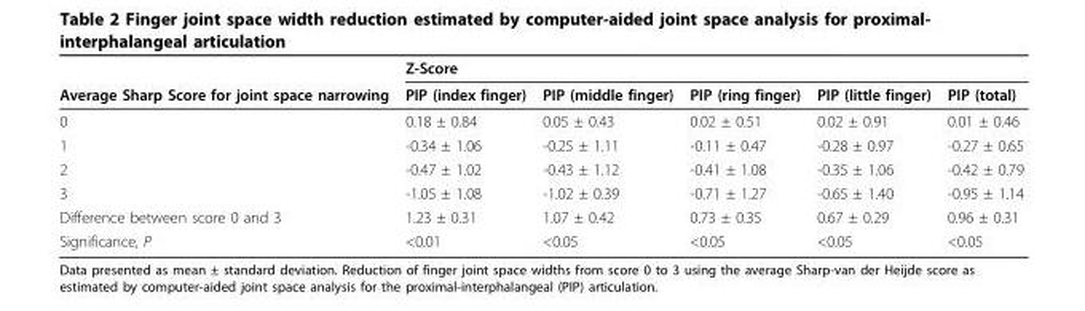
<table><thead><tr><td rowspan="2">Average Sharp Score for joint space narrowing</td><td colspan="5">Z-Score</td></tr><tr><td>PIP (index finger)</td><td>PIP (middle finger)</td><td>PIP (ring finger)</td><td>PIP (little finger)</td><td>PIP (total)</td></tr></thead><tbody><tr><td>0</td><td>0.18 ± 0.84</td><td>0.05 ± 0.43</td><td>0.02 ± 0.51</td><td>0.02 ± 0.91</td><td>0.01 ± 0.46</td></tr><tr><td>1</td><td>-0.34 ± 1.06</td><td>-0.25 ± 1.11</td><td>-0.11 ± 0.47</td><td>-0.28 ± 0.97</td><td>-0.27 ± 0.65</td></tr><tr><td>2</td><td>-0.47 ± 1.02</td><td>-0.43 ± 1.12</td><td>-0.41 ± 1.08</td><td>-0.35 ± 1.06</td><td>-0.42 ± 0.79</td></tr><tr><td>3</td><td>-1.05 ± 1.08</td><td>-1.02 ± 0.39</td><td>-0.71 ± 1.27</td><td>-0.65 ± 1.40</td><td>-0.95 ± 1.14</td></tr><tr><td>Difference between score 0 and 3</td><td>1.23 ± 0.31</td><td>1.07 ± 0.42</td><td>0.73 ± 0.35</td><td>0.67 ± 0.29</td><td>0.96 ± 0.31</td></tr><tr><td>Significance, P</td><td>&lt;0.01</td><td>&lt;0.05</td><td>&lt;0.05</td><td>&lt;0.05</td><td>&lt;0.05</td></tr></tbody></table>